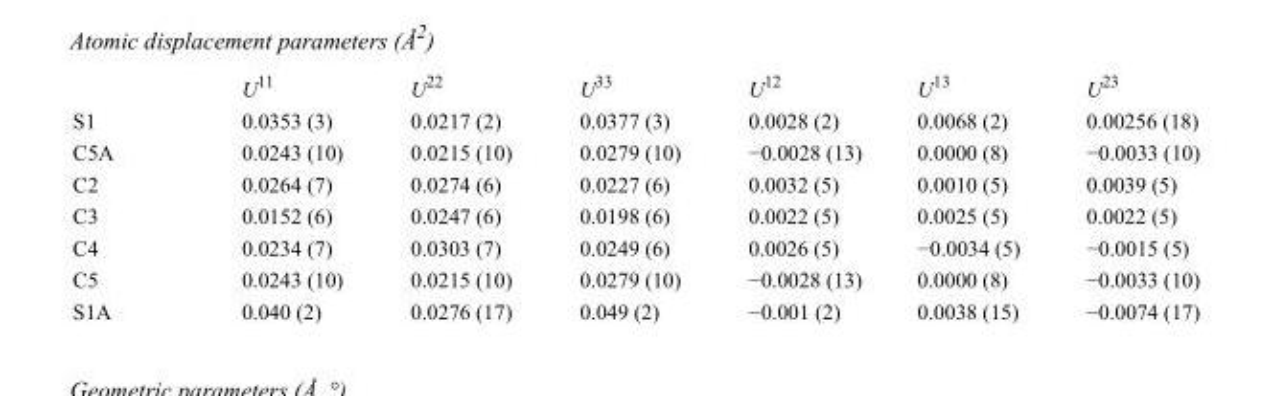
<table><thead><tr><td></td><td>U<sup>11</sup></td><td>U<sup>22</sup></td><td>U<sup>33</sup></td><td>U<sup>12</sup></td><td>U<sup>13</sup></td><td>U<sup>23</sup></td></tr></thead><tbody><tr><td>S1</td><td>0.0353 (3)</td><td>0.0217 (2)</td><td>0.0377 (3)</td><td>0.0028 (2)</td><td>0.0068 (2)</td><td>0.00256 (18)</td></tr><tr><td>C5A</td><td>0.0243 (10)</td><td>0.0215 (10)</td><td>0.0279 (10)</td><td>−0.0028 (13)</td><td>0.0000 (8)</td><td>−0.0033 (10)</td></tr><tr><td>C2</td><td>0.0264 (7)</td><td>0.0274 (6)</td><td>0.0227 (6)</td><td>0.0032 (5)</td><td>0.0010 (5)</td><td>0.0039 (5)</td></tr><tr><td>C3</td><td>0.0152 (6)</td><td>0.0247 (6)</td><td>0.0198 (6)</td><td>0.0022 (5)</td><td>0.0025 (5)</td><td>0.0022 (5)</td></tr><tr><td>C4</td><td>0.0234 (7)</td><td>0.0303 (7)</td><td>0.0249 (6)</td><td>0.0026 (5)</td><td>−0.0034 (5)</td><td>−0.0015 (5)</td></tr><tr><td>C5</td><td>0.0243 (10)</td><td>0.0215 (10)</td><td>0.0279 (10)</td><td>−0.0028 (13)</td><td>0.0000 (8)</td><td>−0.0033 (10)</td></tr><tr><td>S1A</td><td>0.040 (2)</td><td>0.0276 (17)</td><td>0.049 (2)</td><td>−0.001 (2)</td><td>0.0038 (15)</td><td>−0.0074 (17)</td></tr></tbody></table>